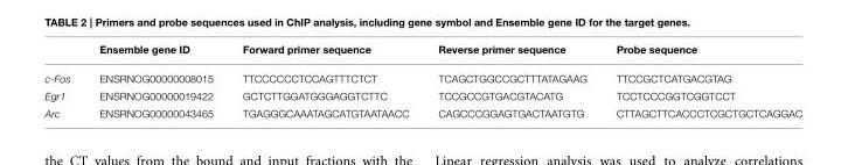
<table><thead><tr><td></td><td>Ensemble gene ID</td><td>Forward primer sequence</td><td>Reverse primer sequence</td><td>Probe sequence</td></tr></thead><tbody><tr><td>c-Fos</td><td>ENSRNOG00000008015</td><td>TTCCCCCCTCCAGTTTCTCT</td><td>TCAGCTGGCCGCTTTATAGAAG</td><td>TTCCGCTCATGACGTAG</td></tr><tr><td>Egr1</td><td>ENSRNOG00000019422</td><td>GCTCTTGGATGGGAGGTCTTC</td><td>TCCGCCGTGACGTACATG</td><td>TCCTCCCGGTCGGTCCT</td></tr><tr><td>Arc</td><td>ENSRNOG00000043465</td><td>TGAGGGCAAATAGCATGTAATAACC</td><td>CAGCCCGGAGTGACTAATGTG</td><td>CTTAGCTTCACCCTCGCTGCTCAGGAC</td></tr></tbody></table>